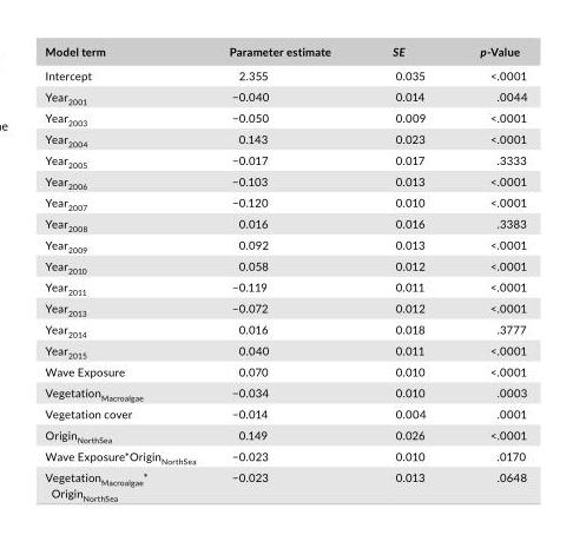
<table><thead><tr><td>Model term</td><td>Parameter estimate</td><td>SE</td><td>p- Value</td></tr></thead><tbody><tr><td>Intercept</td><td>2.355</td><td>0.035</td><td>&lt;.0001</td></tr><tr><td>Year<sub>2001</sub></td><td>−0.040</td><td>0.014</td><td>.0044</td></tr><tr><td>Year<sub>2003</sub></td><td>−0.050</td><td>0.009</td><td>&lt;.0001</td></tr><tr><td>Year<sub>2004</sub></td><td>0.143</td><td>0.023</td><td>&lt;.0001</td></tr><tr><td>Year<sub>2005</sub></td><td>−0.017</td><td>0.017</td><td>.3333</td></tr><tr><td>Year<sub>2006</sub></td><td>−0.103</td><td>0.013</td><td>&lt;.0001</td></tr><tr><td>Year<sub>2007</sub></td><td>−0.120</td><td>0.010</td><td>&lt;.0001</td></tr><tr><td>Year<sub>2008</sub></td><td>0.016</td><td>0.016</td><td>.3383</td></tr><tr><td>Year<sub>2009</sub></td><td>0.092</td><td>0.013</td><td>&lt;.0001</td></tr><tr><td>Year<sub>2010</sub></td><td>0.058</td><td>0.012</td><td>&lt;.0001</td></tr><tr><td>Year<sub>2011</sub></td><td>−0.119</td><td>0.011</td><td>&lt;.0001</td></tr><tr><td>Year<sub>2013</sub></td><td>−0.072</td><td>0.012</td><td>&lt;.0001</td></tr><tr><td>Year<sub>2014</sub></td><td>0.016</td><td>0.018</td><td>.3777</td></tr><tr><td>Year<sub>2015</sub></td><td>0.040</td><td>0.011</td><td>&lt;.0001</td></tr><tr><td>Wave Exposure</td><td>0.070</td><td>0.010</td><td>&lt;.0001</td></tr><tr><td>Vegetation<sub>Macroalgae</sub></td><td>−0.034</td><td>0.010</td><td>.0003</td></tr><tr><td>Vegetation cover</td><td>−0.014</td><td>0.004</td><td>.0001</td></tr><tr><td>Origin<sub>NorthSea</sub></td><td>0.149</td><td>0.026</td><td>&lt;.0001</td></tr><tr><td>Wave Exposure*Origin<sub>NorthSea</sub></td><td>−0.023</td><td>0.010</td><td>.0170</td></tr><tr><td>Vegetation<sub>Macroalgae</sub>* Origin<sub>NorthSea</sub></td><td>−0.023</td><td>0.013</td><td>.0648</td></tr></tbody></table>